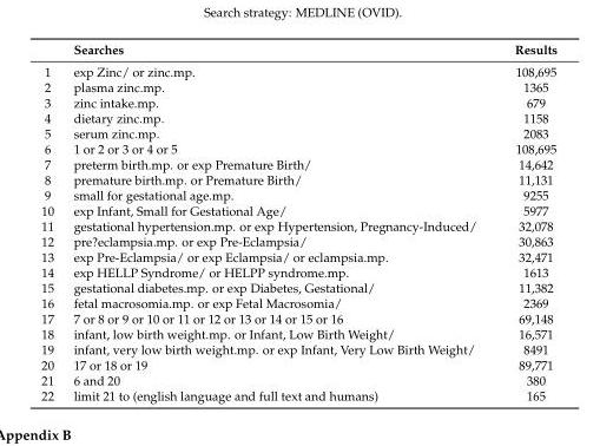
<table><thead><tr><td></td><td>Searches</td><td>Results</td></tr></thead><tbody><tr><td>1</td><td>exp Zinc/ or zinc.mp.</td><td>108,695</td></tr><tr><td>2</td><td>plasma zinc.mp.</td><td>1365</td></tr><tr><td>3</td><td>zinc intake.mp.</td><td>679</td></tr><tr><td>4</td><td>dietary zinc.mp.</td><td>1158</td></tr><tr><td>5</td><td>serum zinc.mp.</td><td>2083</td></tr><tr><td>6</td><td>1 or 2 or 3 or 4 or 5</td><td>108,695</td></tr><tr><td>7</td><td>preterm birth.mp. or exp Premature Birth/</td><td>14,642</td></tr><tr><td>8</td><td>premature birth.mp. or Premature Birth/</td><td>11,131</td></tr><tr><td>9</td><td>small for gestational age.mp.</td><td>9255</td></tr><tr><td>10</td><td>exp Infant, Small for Gestational Age/</td><td>5977</td></tr><tr><td>11</td><td>gestational hypertension.mp. or exp Hypertension, Pregnancy-Induced/</td><td>32,078</td></tr><tr><td>12</td><td>pre?eclampsia.mp. or exp Pre-Eclampsia/</td><td>30,863</td></tr><tr><td>13</td><td>exp Pre-Eclampsia/ or exp Eclampsia/ or eclampsia.mp.</td><td>32,471</td></tr><tr><td>14</td><td>exp HELLP Syndrome/ or HELPP syndrome.mp.</td><td>1613</td></tr><tr><td>15</td><td>gestational diabetes.mp. or exp Diabetes, Gestational/</td><td>11,382</td></tr><tr><td>16</td><td>fetal macrosomia.mp. or exp Fetal Macrosomia/</td><td>2369</td></tr><tr><td>17</td><td>7 or 8 or 9 or 10 or 11 or 12 or 13 or 14 or 15 or 16</td><td>69,148</td></tr><tr><td>18</td><td>infant, low birth weight.mp. or Infant, Low Birth Weight/</td><td>16,571</td></tr><tr><td>19</td><td>infant, very low birth weight.mp. or exp Infant, Very Low Birth Weight/</td><td>8491</td></tr><tr><td>20</td><td>17 or 18 or 19</td><td>89,771</td></tr><tr><td>21</td><td>6 and 20</td><td>380</td></tr><tr><td>22</td><td>limit 21 to (english language and full text and humans)</td><td>165</td></tr></tbody></table>